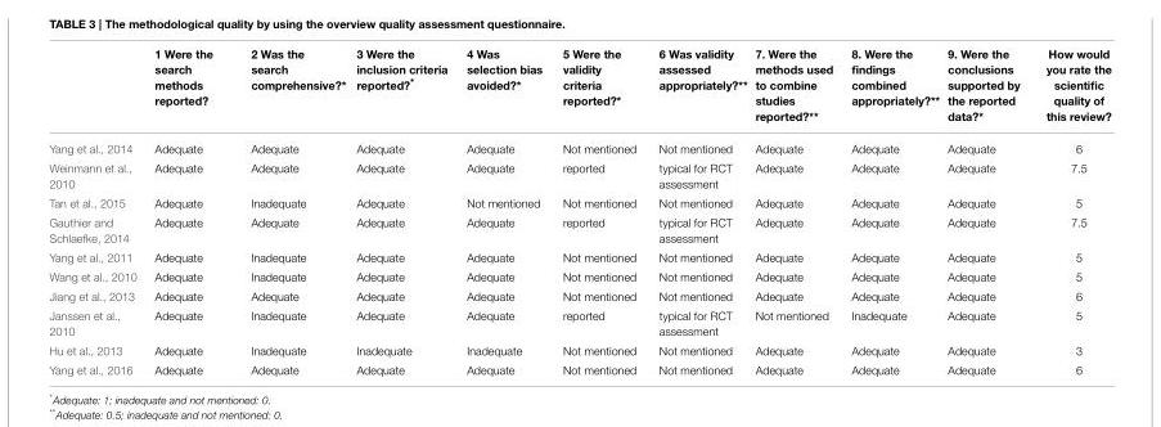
<table><thead><tr><td></td><td>1 Were the search methods reported?</td><td>2 Was the search comprehensive?*</td><td>3 Were the inclusion criteria reported?*</td><td>4 Was selection bias avoided?*</td><td>5 Were the validity criteria reported?*</td><td>6 Was validity assessed appropriately?**</td><td>7. Were the methods used to combine studies reported?**</td><td>8. Were the findings combined appropriately?**</td><td>9. Were the conclusions supported by the reported data?*</td><td>How would you rate the scientific quality of this review?</td></tr></thead><tbody><tr><td>Yang et al., 2014</td><td>Adequate</td><td>Adequate</td><td>Adequate</td><td>Adequate</td><td>Not mentioned</td><td>Not mentioned</td><td>Adequate</td><td>Adequate</td><td>Adequate</td><td>6</td></tr><tr><td>Weinmann et al., 2010</td><td>Adequate</td><td>Adequate</td><td>Adequate</td><td>Adequate</td><td>reported</td><td>typical for RCT assessment</td><td>Adequate</td><td>Adequate</td><td>Adequate</td><td>7.5</td></tr><tr><td>Tan et al., 2015</td><td>Adequate</td><td>Inadequate</td><td>Adequate</td><td>Not mentioned</td><td>Not mentioned</td><td>Not mentioned</td><td>Adequate</td><td>Adequate</td><td>Adequate</td><td>5</td></tr><tr><td>Gauthier and Schlaefke, 2014</td><td>Adequate</td><td>Adequate</td><td>Adequate</td><td>Adequate</td><td>reported</td><td>typical for RCT assessment</td><td>Adequate</td><td>Adequate</td><td>Adequate</td><td>7.5</td></tr><tr><td>Yang et al., 2011</td><td>Adequate</td><td>Inadequate</td><td>Adequate</td><td>Adequate</td><td>Not mentioned</td><td>Not mentioned</td><td>Adequate</td><td>Adequate</td><td>Adequate</td><td>5</td></tr><tr><td>Wang et al., 2010</td><td>Adequate</td><td>Inadequate</td><td>Adequate</td><td>Adequate</td><td>Not mentioned</td><td>Not mentioned</td><td>Adequate</td><td>Adequate</td><td>Adequate</td><td>5</td></tr><tr><td>Jiang et al., 2013</td><td>Adequate</td><td>Adequate</td><td>Adequate</td><td>Adequate</td><td>Not mentioned</td><td>Not mentioned</td><td>Adequate</td><td>Adequate</td><td>Adequate</td><td>6</td></tr><tr><td>Janssen et al., 2010</td><td>Adequate</td><td>Inadequate</td><td>Adequate</td><td>Adequate</td><td>reported</td><td>typical for RCT assessment</td><td>Not mentioned</td><td>Inadequate</td><td>Adequate</td><td>5</td></tr><tr><td>Hu et al., 2013</td><td>Adequate</td><td>Inadequate</td><td>Inadequate</td><td>Inadequate</td><td>Not mentioned</td><td>Not mentioned</td><td>Adequate</td><td>Adequate</td><td>Adequate</td><td>3</td></tr><tr><td>Yang et al., 2016</td><td>Adequate</td><td>Adequate</td><td>Adequate</td><td>Adequate</td><td>Not mentioned</td><td>Not mentioned</td><td>Adequate</td><td>Adequate</td><td>Adequate</td><td>6</td></tr></tbody></table>